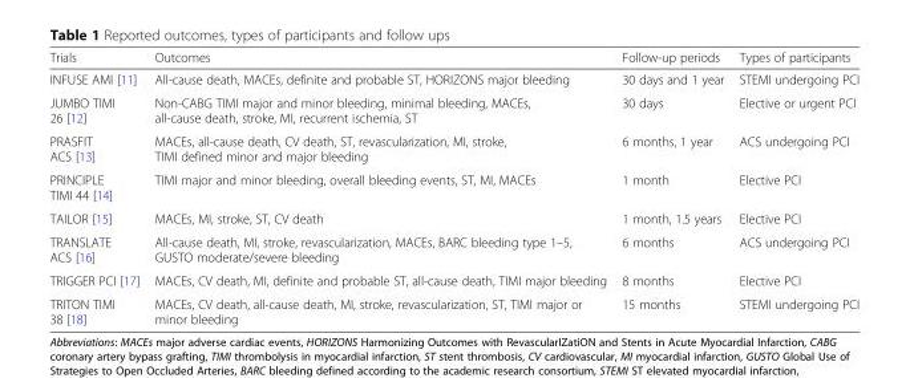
<table><thead><tr><td>Trials</td><td>Outcomes</td><td>Follow-up periods</td><td>Types of participants</td></tr></thead><tbody><tr><td>INFUSE AMI [11]</td><td>All-cause death, MACEs, definite and probable ST, HORIZONS major bleeding</td><td>30 days and 1 year</td><td>STEMI undergoing PCI</td></tr><tr><td>JUMBO TIMI 26 [12]</td><td>Non-CABG TIMI major and minor bleeding, minimal bleeding, MACEs, all-cause death, stroke, MI, recurrent ischemia, ST</td><td>30 days</td><td>Elective or urgent PCI</td></tr><tr><td>PRASFIT ACS [13]</td><td>MACEs, all-cause death, CV death, ST, revascularization, MI, stroke, TIMI defined minor and major bleeding</td><td>6 months, 1 year</td><td>ACS undergoing PCI</td></tr><tr><td>PRINCIPLE TIMI 44 [14]</td><td>TIMI major and minor bleeding, overall bleeding events, ST, MI, MACEs</td><td>1 month</td><td>Elective PCI</td></tr><tr><td>TAILOR [15]</td><td>MACEs, MI, stroke, ST, CV death</td><td>1 month, 1.5 years</td><td>Elective PCI</td></tr><tr><td>TRANSLATE ACS [16]</td><td>All-cause death, MI, stroke, revascularization, MACEs, BARC bleeding type 1–5, GUSTO moderate/severe bleeding</td><td>6 months</td><td>ACS undergoing PCI</td></tr><tr><td>TRIGGER PCI [17]</td><td>MACEs, CV death, MI, definite and probable ST, all-cause death, TIMI major bleeding</td><td>8 months</td><td>Elective PCI</td></tr><tr><td>TRITON TIMI 38 [18]</td><td>MACEs, CV death, all-cause death, MI, stroke, revascularization, ST, TIMI major or minor bleeding</td><td>15 months</td><td>STEMI undergoing PCI</td></tr></tbody></table>